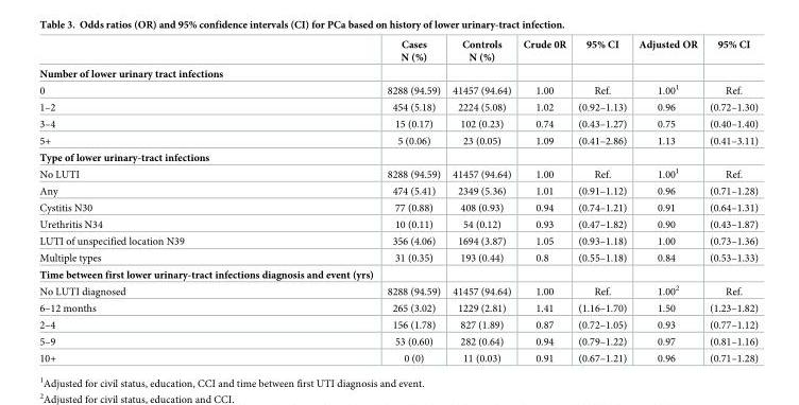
<table><thead><tr><td></td><td>Cases N (%)</td><td>Controls N (%)</td><td>Crude 0R</td><td>95% CI</td><td>Adjusted OR</td><td>95% CI</td></tr></thead><tbody><tr><td colspan="7">Number of lower urinary tract infections</td></tr><tr><td>0</td><td>8288 (94.59)</td><td>41457 (94.64)</td><td>1.00</td><td>Ref.</td><td>1.00<sup>1</sup></td><td>Ref.</td></tr><tr><td>1–2</td><td>454 (5.18)</td><td>2224 (5.08)</td><td>1.02</td><td>(0.92–1.13)</td><td>0.96</td><td>(0.72–1.30)</td></tr><tr><td>3–4</td><td>15 (0.17)</td><td>102 (0.23)</td><td>0.74</td><td>(0.43–1.27)</td><td>0.75</td><td>(0.40–1.40)</td></tr><tr><td>5+</td><td>5 (0.06)</td><td>23 (0.05)</td><td>1.09</td><td>(0.41–2.86)</td><td>1.13</td><td>(0.41–3.11)</td></tr><tr><td colspan="7">Type of lower urinary-tract infections</td></tr><tr><td>No LUTI</td><td>8288 (94.59)</td><td>41457 (94.64)</td><td>1.00</td><td>Ref.</td><td>1.00<sup>1</sup></td><td>Ref.</td></tr><tr><td>Any</td><td>474 (5.41)</td><td>2349 (5.36)</td><td>1.01</td><td>(0.91–1.12)</td><td>0.96</td><td>(0.71–1.28)</td></tr><tr><td>Cystitis N30</td><td>77 (0.88)</td><td>408 (0.93)</td><td>0.94</td><td>(0.74–1.21)</td><td>0.91</td><td>(0.64–1.31)</td></tr><tr><td>Urethritis N34</td><td>10 (0.11)</td><td>54 (0.12)</td><td>0.93</td><td>(0.47–1.82)</td><td>0.90</td><td>(0.43–1.87)</td></tr><tr><td>LUTI of unspecified location N39</td><td>356 (4.06)</td><td>1694 (3.87)</td><td>1.05</td><td>(0.93–1.18)</td><td>1.00</td><td>(0.73–1.36)</td></tr><tr><td>Multiple types</td><td>31 (0.35)</td><td>193 (0.44)</td><td>0.8</td><td>(0.55–1.18)</td><td>0.84</td><td>(0.53–1.33)</td></tr><tr><td colspan="7">Time between first lower urinary-tract infections diagnosis and event (yrs)</td></tr><tr><td>No LUTI diagnosed</td><td>8288 (94.59)</td><td>41457 (94.64)</td><td>1.00</td><td>Ref.</td><td>1.00<sup>2</sup></td><td>Ref.</td></tr><tr><td>6–12 months</td><td>265 (3.02)</td><td>1229 (2.81)</td><td>1.41</td><td>(1.16–1.70)</td><td>1.50</td><td>(1.23–1.82)</td></tr><tr><td>2–4</td><td>156 (1.78)</td><td>827 (1.89)</td><td>0.87</td><td>(0.72–1.05)</td><td>0.93</td><td>(0.77–1.12)</td></tr><tr><td>5–9</td><td>53 (0.60)</td><td>282 (0.64)</td><td>0.94</td><td>(0.79–1.22)</td><td>0.97</td><td>(0.81–1.16)</td></tr><tr><td>10+</td><td>0 (0)</td><td>11 (0.03)</td><td>0.91</td><td>(0.67–1.21)</td><td>0.96</td><td>(0.71–1.28)</td></tr></tbody></table>